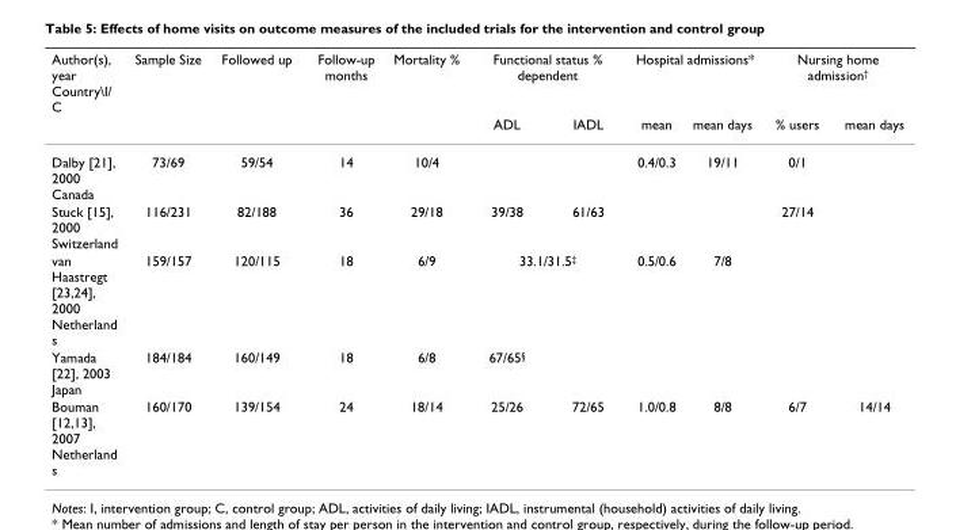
<table><thead><tr><td rowspan="2">Author(s), year Country\I/ C</td><td rowspan="2">Sample Size</td><td rowspan="2">Followed up</td><td rowspan="2">Follow-up months</td><td rowspan="2">Mortality %</td><td colspan="2">Functional status % dependent</td><td colspan="2">Hospital admissions*</td><td colspan="2">Nursing home admission<sup>†</sup></td></tr><tr><td>ADL</td><td>IADL</td><td>mean</td><td>mean days</td><td>% users</td><td>mean days</td></tr></thead><tbody><tr><td>Dalby [21], 2000 Canada</td><td>73/69</td><td>59/54</td><td>14</td><td>10/4</td><td></td><td></td><td>0.4/0.3</td><td>19/11</td><td>0/1</td><td></td></tr><tr><td>Stuck [15], 2000 Switzerland</td><td>116/231</td><td>82/188</td><td>36</td><td>29/18</td><td>39/38</td><td>61/63</td><td></td><td></td><td>27/14</td><td></td></tr><tr><td>van Haastregt [23,24], 2000 Netherland s</td><td>159/157</td><td>120/115</td><td>18</td><td>6/9</td><td colspan="2">33.1/31.5<sup>‡</sup></td><td>0.5/0.6</td><td>7/8</td><td></td><td></td></tr><tr><td>Yamada [22], 2003 Japan</td><td>184/184</td><td>160/149</td><td>18</td><td>6/8</td><td>67/65<sup>§</sup></td><td></td><td></td><td></td><td></td><td></td></tr><tr><td>Bouman [12,13], 2007 Netherland s</td><td>160/170</td><td>139/154</td><td>24</td><td>18/14</td><td>25/26</td><td>72/65</td><td>1.0/0.8</td><td>8/8</td><td>6/7</td><td>14/14</td></tr></tbody></table>